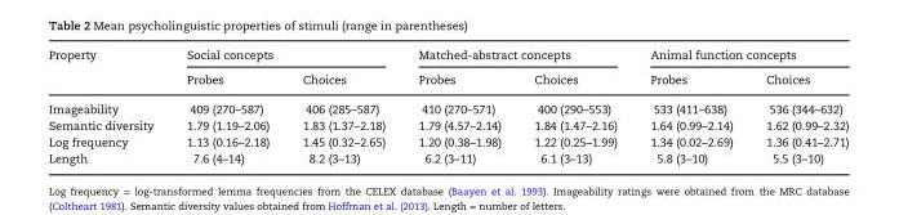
<table><thead><tr><td rowspan="2">Property</td><td colspan="2">Social concepts</td><td colspan="2">Matched-abstract concepts</td><td colspan="2">Animal function concepts</td></tr><tr><td>Probes</td><td>Choices</td><td>Probes</td><td>Choices</td><td>Probes</td><td>Choices</td></tr></thead><tbody><tr><td>Imageability</td><td>409 (270–587)</td><td>406 (285–587)</td><td>410 (270–571)</td><td>400 (290–553)</td><td>533 (411–638)</td><td>536 (344–632)</td></tr><tr><td>Semantic diversity</td><td>1.79 (1.19–2.06)</td><td>1.83 (1.37–2.18)</td><td>1.79 (4.57–2.14)</td><td>1.84 (1.47–2.16)</td><td>1.64 (0.99–2.14)</td><td>1.62 (0.99–2.32)</td></tr><tr><td>Log frequency</td><td>1.13 (0.16–2.18)</td><td>1.45 (0.32–2.65)</td><td>1.20 (0.38–1.98)</td><td>1.22 (0.25–1.99)</td><td>1.34 (0.02–2.69)</td><td>1.36 (0.41–2.71)</td></tr><tr><td>Length</td><td>7.6 (4–14)</td><td>8.2 (3–13)</td><td>6.2 (3–11)</td><td>6.1 (3–13)</td><td>5.8 (3–10)</td><td>5.5 (3–10)</td></tr></tbody></table>